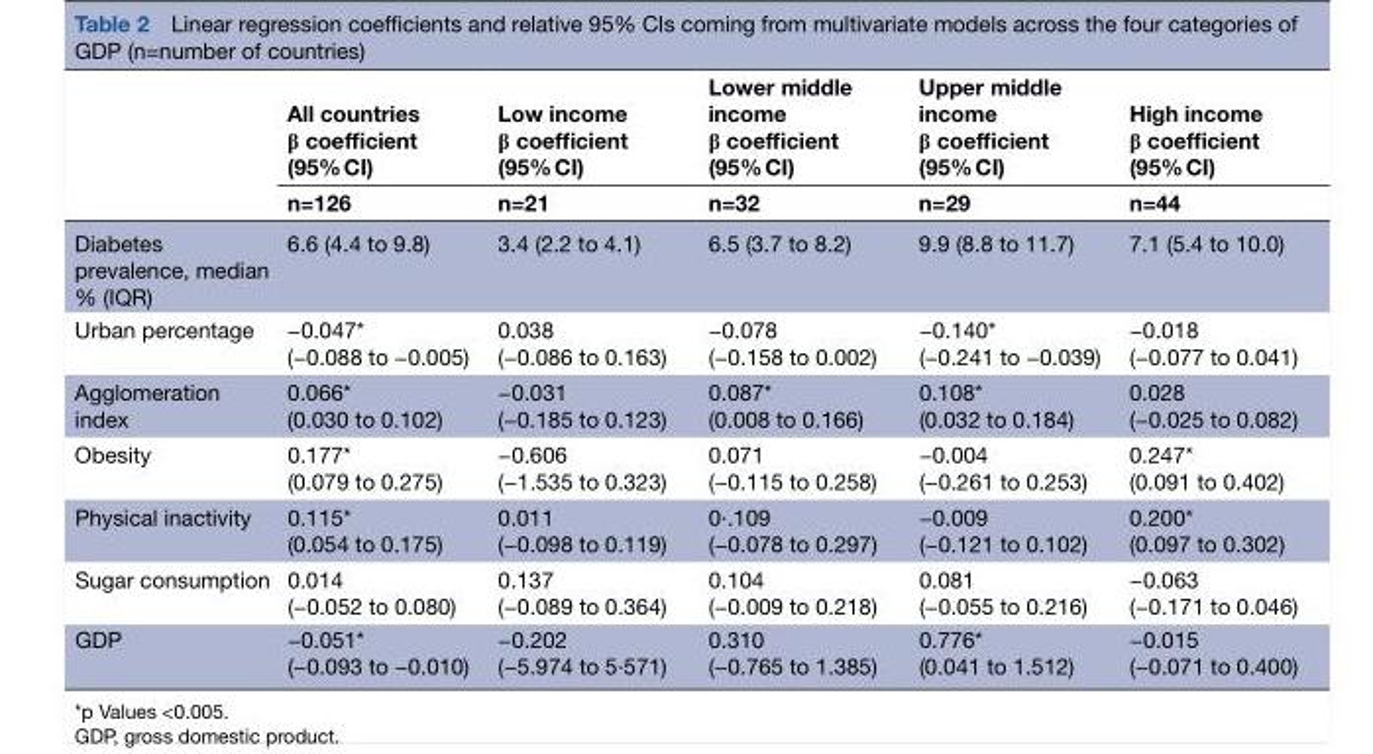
<table><thead><tr><td rowspan="2"></td><td rowspan="2">All countries β coefficient (95% CI) n=126</td><td rowspan="2">Low income β coefficient (95% CI) n=21</td><td rowspan="2">Lower middle income β coefficient (95% CI) n=32</td><td rowspan="2">Upper middle income β coefficient (95% CI) n=29</td><td rowspan="2">High income β coefficient (95% CI) n=44</td></tr><tr></tr></thead><tbody><tr><td>Diabetes prevalence, median % (IQR)</td><td>6.6 (4.4 to 9.8)</td><td>3.4 (2.2 to 4.1)</td><td>6.5 (3.7 to 8.2)</td><td>9.9 (8.8 to 11.7)</td><td>7.1 (5.4 to 10.0)</td></tr><tr><td>Urban percentage</td><td>−0.047* (−0.088 to −0.005)</td><td>0.038 (−0.086 to 0.163)</td><td>−0.078 (−0.158 to 0.002)</td><td>−0.140* (−0.241 to −0.039)</td><td>−0.018 (−0.077 to 0.041)</td></tr><tr><td>Agglomeration index</td><td>0.066* (0.030 to 0.102)</td><td>−0.031 (−0.185 to 0.123)</td><td>0.087* (0.008 to 0.166)</td><td>0.108* (0.032 to 0.184)</td><td>0.028 (−0.025 to 0.082)</td></tr><tr><td>Obesity</td><td>0.177* (0.079 to 0.275)</td><td>−0.606 (−1.535 to 0.323)</td><td>0.071 (−0.115 to 0.258)</td><td>−0.004 (−0.261 to 0.253)</td><td>0.247* (0.091 to 0.402)</td></tr><tr><td>Physical inactivity</td><td>0.115* (0.054 to 0.175)</td><td>0.011 (−0.098 to 0.119)</td><td>0·.109 (−0.078 to 0.297)</td><td>−0.009 (−0.121 to 0.102)</td><td>0.200* (0.097 to 0.302)</td></tr><tr><td>Sugar consumption</td><td>0.014 (−0.052 to 0.080)</td><td>0.137 (−0.089 to 0.364)</td><td>0.104 (−0.009 to 0.218)</td><td>0.081 (−0.055 to 0.216)</td><td>−0.063 (−0.171 to 0.046)</td></tr><tr><td>GDP</td><td>−0.051* (−0.093 to −0.010)</td><td>−0.202 (−5.974 to 5·571)</td><td>0.310 (−0.765 to 1.385)</td><td>0.776* (0.041 to 1.512)</td><td>−0.015 (−0.071 to 0.400)</td></tr></tbody></table>